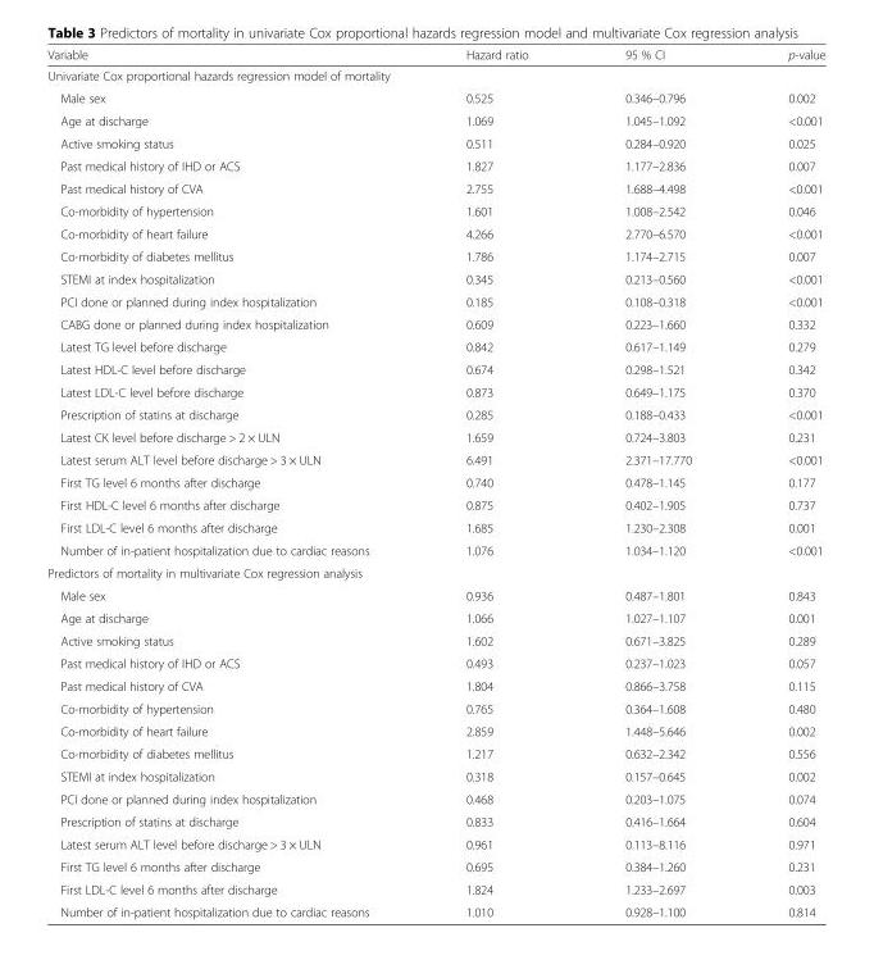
<table><thead><tr><td>Variable</td><td>Hazard ratio</td><td>95 % CI</td><td>p-value</td></tr></thead><tbody><tr><td colspan="4">Univariate Cox proportional hazards regression model of mortality</td></tr><tr><td>Male sex</td><td>0.525</td><td>0.346–0.796</td><td>0.002</td></tr><tr><td>Age at discharge</td><td>1.069</td><td>1.045–1.092</td><td>&lt;0.001</td></tr><tr><td>Active smoking status</td><td>0.511</td><td>0.284–0.920</td><td>0.025</td></tr><tr><td>Past medical history of IHD or ACS</td><td>1.827</td><td>1.177–2.836</td><td>0.007</td></tr><tr><td>Past medical history of CVA</td><td>2.755</td><td>1.688–4.498</td><td>&lt;0.001</td></tr><tr><td>Co-morbidity of hypertension</td><td>1.601</td><td>1.008–2.542</td><td>0.046</td></tr><tr><td>Co-morbidity of heart failure</td><td>4.266</td><td>2.770–6.570</td><td>&lt;0.001</td></tr><tr><td>Co-morbidity of diabetes mellitus</td><td>1.786</td><td>1.174–2.715</td><td>0.007</td></tr><tr><td>STEMI at index hospitalization</td><td>0.345</td><td>0.213–0.560</td><td>&lt;0.001</td></tr><tr><td>PCI done or planned during index hospitalization</td><td>0.185</td><td>0.108–0.318</td><td>&lt;0.001</td></tr><tr><td>CABG done or planned during index hospitalization</td><td>0.609</td><td>0.223–1.660</td><td>0.332</td></tr><tr><td>Latest TG level before discharge</td><td>0.842</td><td>0.617–1.149</td><td>0.279</td></tr><tr><td>Latest HDL-C level before discharge</td><td>0.674</td><td>0.298–1.521</td><td>0.342</td></tr><tr><td>Latest LDL-C level before discharge</td><td>0.873</td><td>0.649–1.175</td><td>0.370</td></tr><tr><td>Prescription of statins at discharge</td><td>0.285</td><td>0.188–0.433</td><td>&lt;0.001</td></tr><tr><td>Latest CK level before discharge &gt; 2 × ULN</td><td>1.659</td><td>0.724–3.803</td><td>0.231</td></tr><tr><td>Latest serum ALT level before discharge &gt; 3 × ULN</td><td>6.491</td><td>2.371–17.770</td><td>&lt;0.001</td></tr><tr><td>First TG level 6 months after discharge</td><td>0.740</td><td>0.478–1.145</td><td>0.177</td></tr><tr><td>First HDL-C level 6 months after discharge</td><td>0.875</td><td>0.402–1.905</td><td>0.737</td></tr><tr><td>First LDL-C level 6 months after discharge</td><td>1.685</td><td>1.230–2.308</td><td>0.001</td></tr><tr><td>Number of in-patient hospitalization due to cardiac reasons</td><td>1.076</td><td>1.034–1.120</td><td>&lt;0.001</td></tr><tr><td colspan="4">Predictors of mortality in multivariate Cox regression analysis</td></tr><tr><td>Male sex</td><td>0.936</td><td>0.487–1.801</td><td>0.843</td></tr><tr><td>Age at discharge</td><td>1.066</td><td>1.027–1.107</td><td>0.001</td></tr><tr><td>Active smoking status</td><td>1.602</td><td>0.671–3.825</td><td>0.289</td></tr><tr><td>Past medical history of IHD or ACS</td><td>0.493</td><td>0.237–1.023</td><td>0.057</td></tr><tr><td>Past medical history of CVA</td><td>1.804</td><td>0.866–3.758</td><td>0.115</td></tr><tr><td>Co-morbidity of hypertension</td><td>0.765</td><td>0.364–1.608</td><td>0.480</td></tr><tr><td>Co-morbidity of heart failure</td><td>2.859</td><td>1.448–5.646</td><td>0.002</td></tr><tr><td>Co-morbidity of diabetes mellitus</td><td>1.217</td><td>0.632–2.342</td><td>0.556</td></tr><tr><td>STEMI at index hospitalization</td><td>0.318</td><td>0.157–0.645</td><td>0.002</td></tr><tr><td>PCI done or planned during index hospitalization</td><td>0.468</td><td>0.203–1.075</td><td>0.074</td></tr><tr><td>Prescription of statins at discharge</td><td>0.833</td><td>0.416–1.664</td><td>0.604</td></tr><tr><td>Latest serum ALT level before discharge &gt; 3 × ULN</td><td>0.961</td><td>0.113–8.116</td><td>0.971</td></tr><tr><td>First TG level 6 months after discharge</td><td>0.695</td><td>0.384–1.260</td><td>0.231</td></tr><tr><td>First LDL-C level 6 months after discharge</td><td>1.824</td><td>1.233–2.697</td><td>0.003</td></tr><tr><td>Number of in-patient hospitalization due to cardiac reasons</td><td>1.010</td><td>0.928–1.100</td><td>0.814</td></tr></tbody></table>